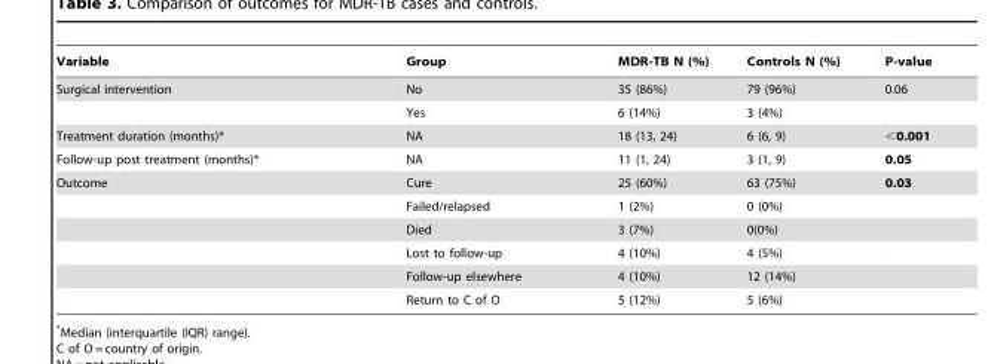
<table><thead><tr><td>Variable</td><td>Group</td><td>MDR-TB N (%)</td><td>Controls N (%)</td><td>P-value</td></tr></thead><tbody><tr><td rowspan="2">Surgical intervention</td><td>No</td><td>35 (86%)</td><td>79 (96%)</td><td>0.06</td></tr><tr><td>Yes</td><td>6 (14%)</td><td>3 (4%)</td><td></td></tr><tr><td>Treatment duration (months)*</td><td>NA</td><td>18 (13, 24)</td><td>6 (6, 9)</td><td>&lt;0.001</td></tr><tr><td>Follow-up post treatment (months)*</td><td>NA</td><td>11 (1, 24)</td><td>3 (1, 9)</td><td>0.05</td></tr><tr><td rowspan="6">Outcome</td><td>Cure</td><td>25 (60%)</td><td>63 (75%)</td><td>0.03</td></tr><tr><td>Failed/relapsed</td><td>1 (2%)</td><td>0 (0%)</td><td></td></tr><tr><td>Died</td><td>3 (7%)</td><td>0(0%)</td><td></td></tr><tr><td>Lost to follow-up</td><td>4 (10%)</td><td>4 (5%)</td><td></td></tr><tr><td>Follow-up elsewhere</td><td>4 (10%)</td><td>12 (14%)</td><td></td></tr><tr><td>Return to C of O</td><td>5 (12%)</td><td>5 (6%)</td><td></td></tr></tbody></table>